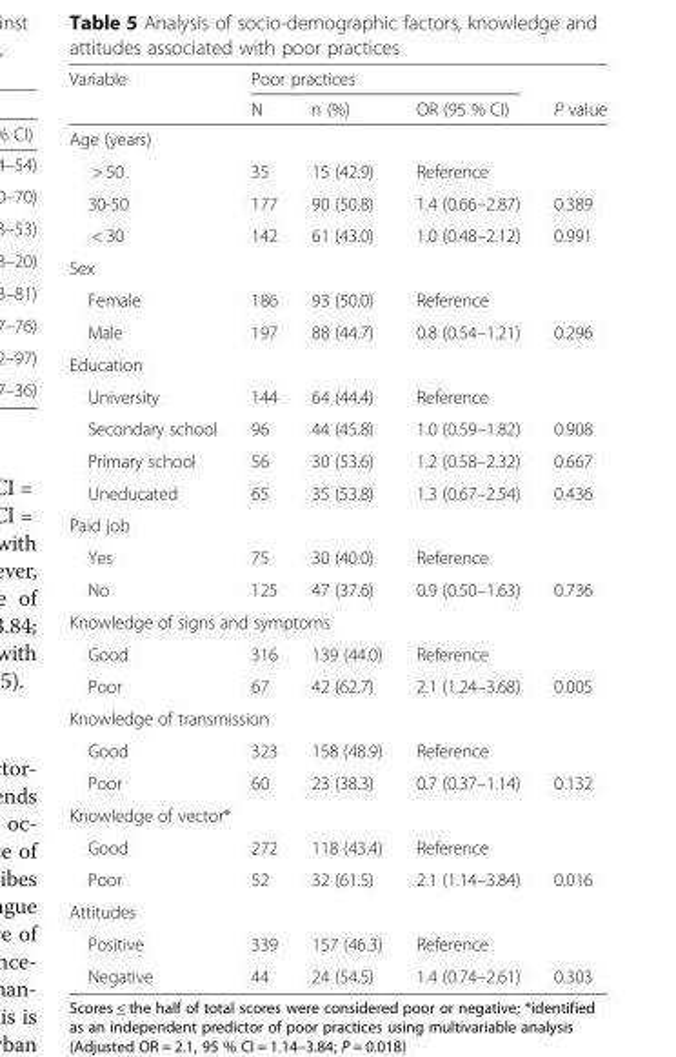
<table><thead><tr><td rowspan="2">Variable</td><td colspan="3">Poor practices</td><td rowspan="2">P value</td></tr><tr><td>N</td><td>n (%)</td><td>OR (95 % CI)</td></tr></thead><tbody><tr><td colspan="5">Age (years)</td></tr><tr><td>&gt; 50</td><td>35</td><td>15 (42.9)</td><td>Reference</td><td></td></tr><tr><td>30-50</td><td>177</td><td>90 (50.8)</td><td>1.4 (0.66–2.87)</td><td>0.389</td></tr><tr><td>&lt; 30</td><td>142</td><td>61 (43.0)</td><td>1.0 (0.48–2.12)</td><td>0.991</td></tr><tr><td colspan="5">Sex</td></tr><tr><td>Female</td><td>186</td><td>93 (50.0)</td><td>Reference</td><td></td></tr><tr><td>Male</td><td>197</td><td>88 (44.7)</td><td>0.8 (0.54–1.21)</td><td>0.296</td></tr><tr><td colspan="5">Education</td></tr><tr><td>University</td><td>144</td><td>64 (44.4)</td><td>Reference</td><td></td></tr><tr><td>Secondary school</td><td>96</td><td>44 (45.8)</td><td>1.0 (0.59–1.82)</td><td>0.908</td></tr><tr><td>Primary school</td><td>56</td><td>30 (53.6)</td><td>1.2 (0.58–2.32)</td><td>0.667</td></tr><tr><td>Uneducated</td><td>65</td><td>35 (53.8)</td><td>1.3 (0.67–2.54)</td><td>0.436</td></tr><tr><td colspan="5">Paid job</td></tr><tr><td>Yes</td><td>75</td><td>30 (40.0)</td><td>Reference</td><td></td></tr><tr><td>No</td><td>125</td><td>47 (37.6)</td><td>0.9 (0.50–1.63)</td><td>0.736</td></tr><tr><td colspan="5">Knowledge of signs and symptoms</td></tr><tr><td>Good</td><td>316</td><td>139 (44.0)</td><td>Reference</td><td></td></tr><tr><td>Poor</td><td>67</td><td>42 (62.7)</td><td>2.1 (1.24–3.68)</td><td>0.005</td></tr><tr><td colspan="5">Knowledge of transmission</td></tr><tr><td>Good</td><td>323</td><td>158 (48.9)</td><td>Reference</td><td></td></tr><tr><td>Poor</td><td>60</td><td>23 (38.3)</td><td>0.7 (0.37–1.14)</td><td>0.132</td></tr><tr><td colspan="5">Knowledge of vector*</td></tr><tr><td>Good</td><td>272</td><td>118 (43.4)</td><td>Reference</td><td></td></tr><tr><td>Poor</td><td>52</td><td>32 (61.5)</td><td>2.1 (1.14–3.84)</td><td>0.016</td></tr><tr><td colspan="5">Attitudes</td></tr><tr><td>Positive</td><td>339</td><td>157 (46.3)</td><td>Reference</td><td></td></tr><tr><td>Negative</td><td>44</td><td>24 (54.5)</td><td>1.4 (0.74–2.61)</td><td>0.303</td></tr></tbody></table>